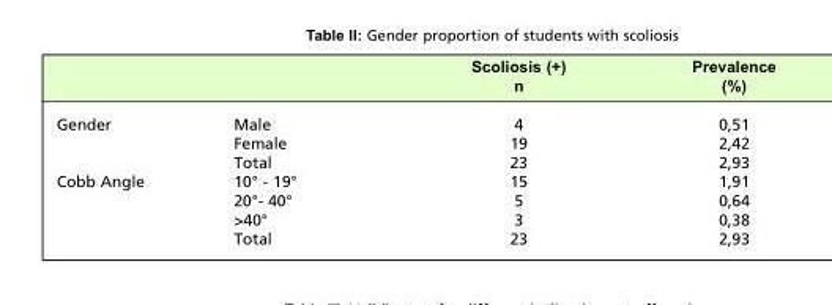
<table><thead><tr><td></td><td></td><td>Scoliosis (+) n</td><td>Prevalence (%)</td></tr></thead><tbody><tr><td rowspan="3">Gender</td><td>Male</td><td>4</td><td>0,51</td></tr><tr><td>Female</td><td>19</td><td>2,42</td></tr><tr><td>Total</td><td>23</td><td>2,93</td></tr><tr><td rowspan="4">Cobb Angle</td><td>10° - 19°</td><td>15</td><td>1,91</td></tr><tr><td>20°- 40°</td><td>5</td><td>0,64</td></tr><tr><td>&gt;40°</td><td>3</td><td>0,38</td></tr><tr><td>Total</td><td>23</td><td>2,93</td></tr></tbody></table>